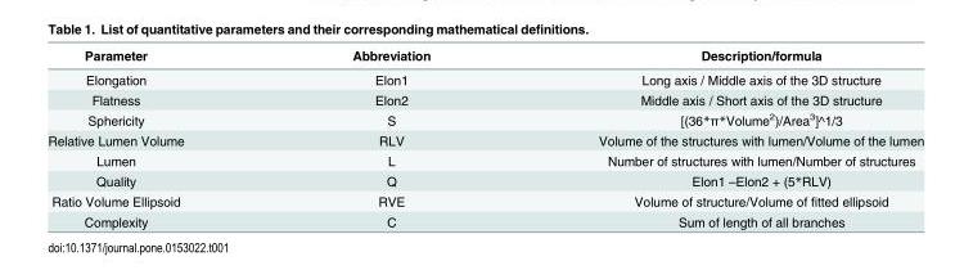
<table><thead><tr><td>Parameter</td><td>Abbreviation</td><td>Description/formula</td></tr></thead><tbody><tr><td>Elongation</td><td>Elon1</td><td>Long axis / Middle axis of the 3D structure</td></tr><tr><td>Flatness</td><td>Elon2</td><td>Middle axis / Short axis of the 3D structure</td></tr><tr><td>Sphericity</td><td>S</td><td>[(36*π*Volume<sup>2</sup>)/Area<sup>3</sup>]^1/3</td></tr><tr><td>Relative Lumen Volume</td><td>RLV</td><td>Volume of the structures with lumen/Volume of the lumen</td></tr><tr><td>Lumen</td><td>L</td><td>Number of structures with lumen/Number of structures</td></tr><tr><td>Quality</td><td>Q</td><td>Elon1 –Elon2 + (5*RLV)</td></tr><tr><td>Ratio Volume Ellipsoid</td><td>RVE</td><td>Volume of structure/Volume of fitted ellipsoid</td></tr><tr><td>Complexity</td><td>C</td><td>Sum of length of all branches</td></tr></tbody></table>